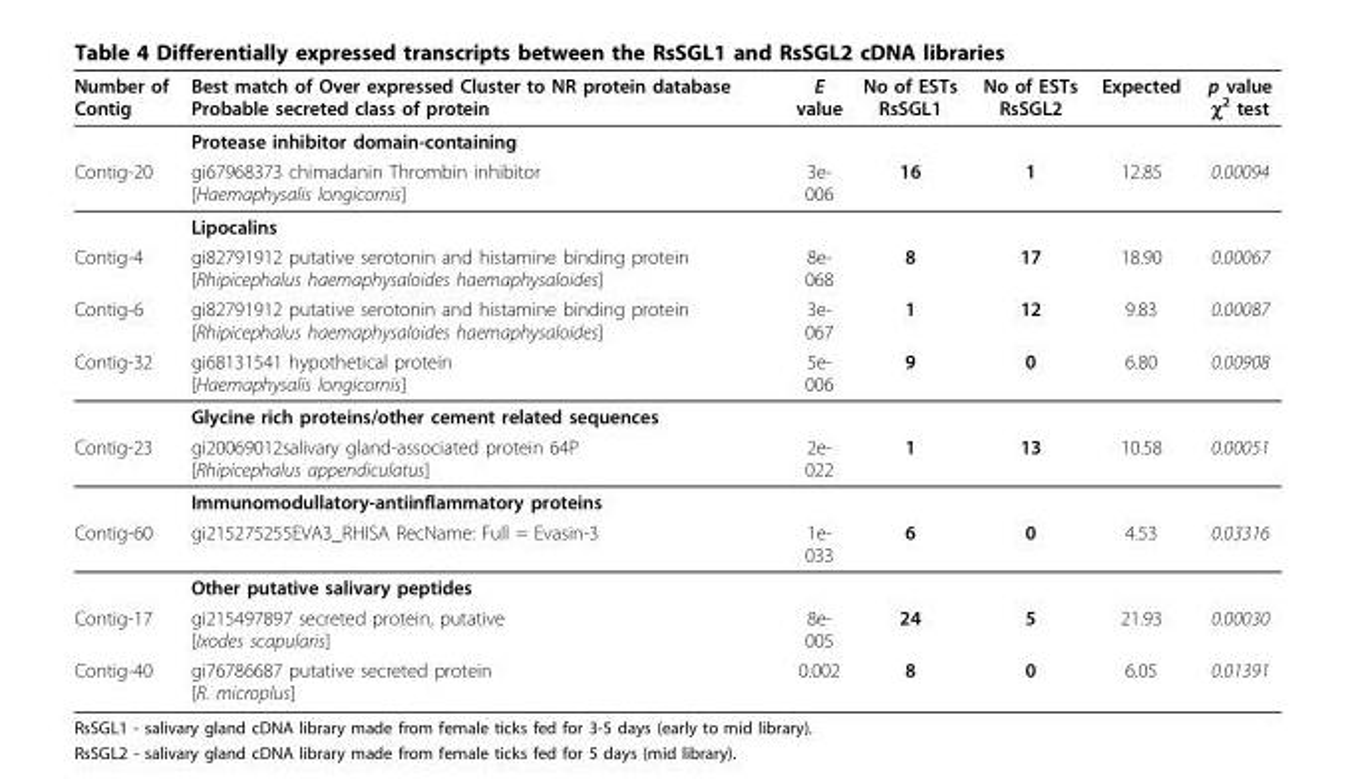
<table><thead><tr><td>Number of Contig</td><td>Best match of Over expressed Cluster to NR protein database Probable secreted class of protein</td><td>E value</td><td>No of ESTs RsSGL1</td><td>No of ESTs RsSGL2</td><td>Expected</td><td>p value χ<sup>2</sup> test</td></tr></thead><tbody><tr><td></td><td>Protease inhibitor domain-containing</td><td></td><td></td><td></td><td></td><td></td></tr><tr><td rowspan="2">Contig-20</td><td>gi67968373 chimadanin Thrombin inhibitor [Haemaphysalis longicornis]</td><td>3e- 006</td><td>16</td><td>1</td><td>12.85</td><td>0.00094</td></tr><tr><td>Lipocalins</td><td></td><td></td><td></td><td></td><td></td></tr><tr><td>Contig-4</td><td>gi82791912 putative serotonin and histamine binding protein [Rhipicephalus haemaphysaloides haemaphysaloides]</td><td>8e- 068</td><td>8</td><td>17</td><td>18.90</td><td>0.00067</td></tr><tr><td>Contig-6</td><td>gi82791912 putative serotonin and histamine binding protein [Rhipicephalus haemaphysaloides haemaphysaloides]</td><td>3e- 067</td><td>1</td><td>12</td><td>9.83</td><td>0.00087</td></tr><tr><td rowspan="2">Contig-32</td><td>gi68131541 hypothetical protein [Haemaphysalis longicornis]</td><td>5e- 006</td><td>9</td><td>0</td><td>6.80</td><td>0.00908</td></tr><tr><td>Glycine rich proteins/other cement related sequences</td><td></td><td></td><td></td><td></td><td></td></tr><tr><td rowspan="2">Contig-23</td><td>gi20069012salivary gland-associated protein 64P [Rhipicephalus appendiculatus]</td><td>2e- 022</td><td>1</td><td>13</td><td>10.58</td><td>0.00051</td></tr><tr><td>Immunomodullatory-antiinflammatory proteins</td><td></td><td></td><td></td><td></td><td></td></tr><tr><td rowspan="2">Contig-60</td><td>gi215275255EVA3_RHISA RecName: Full = Evasin-3</td><td>1e- 033</td><td>6</td><td>0</td><td>4.53</td><td>0.03316</td></tr><tr><td>Other putative salivary peptides</td><td></td><td></td><td></td><td></td><td></td></tr><tr><td>Contig-17</td><td>gi215497897 secreted protein, putative [Ixodes scapularis]</td><td>8e- 005</td><td>24</td><td>5</td><td>21.93</td><td>0.00030</td></tr><tr><td>Contig-40</td><td>gi76786687 putative secreted protein [R. microplus]</td><td>0.002</td><td>8</td><td>0</td><td>6.05</td><td>0.01391</td></tr></tbody></table>